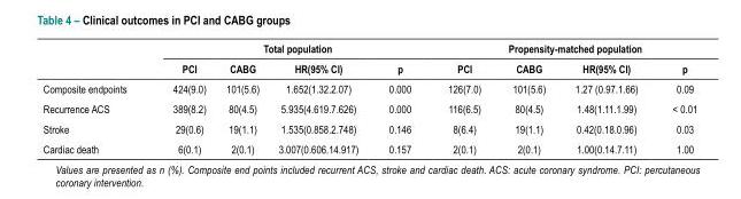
<table><thead><tr><td rowspan="2"></td><td colspan="4">Total population</td><td colspan="4">Propensity-matched population</td></tr><tr><td>PCI</td><td>CABG</td><td>HR(95% CI)</td><td>p</td><td>PCI</td><td>CABG</td><td>HR(95% CI)</td><td>p</td></tr></thead><tbody><tr><td>Composite endpoints</td><td>424(9.0)</td><td>101(5.6)</td><td>1.652(1.32.2.07)</td><td>0.000</td><td>126(7.0)</td><td>101(5.6)</td><td>1.27 (0.97.1.66)</td><td>0.09</td></tr><tr><td>Recurrence ACS</td><td>389(8.2)</td><td>80(4.5)</td><td>5.935(4.619.7.626)</td><td>0.000</td><td>116(6.5)</td><td>80(4.5)</td><td>1.48(1.11.1.99)</td><td>&lt; 0.01</td></tr><tr><td>Stroke</td><td>29(0.6)</td><td>19(1.1)</td><td>1.535(0.858.2.748)</td><td>0.146</td><td>8(6.4)</td><td>19(1.1)</td><td>0.42(0.18.0.96)</td><td>0.03</td></tr><tr><td>Cardiac death</td><td>6(0.1)</td><td>2(0.1)</td><td>3.007(0.606.14.917)</td><td>0.157</td><td>2(0.1)</td><td>2(0.1)</td><td>1.00(0.14.7.11)</td><td>1.00</td></tr></tbody></table>